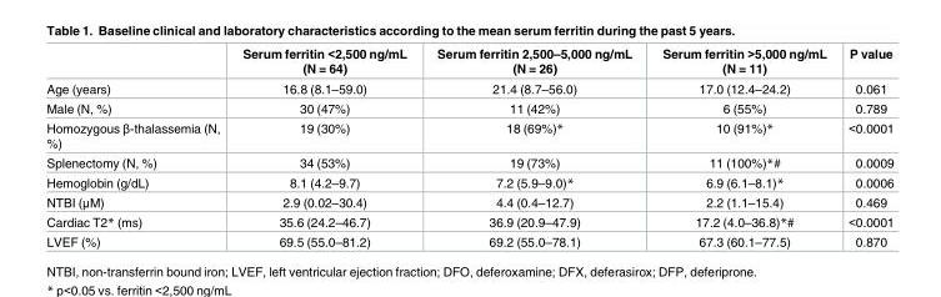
<table><thead><tr><td></td><td>Serum ferritin &lt;2,500 ng/mL (N = 64)</td><td>Serum ferritin 2,500–5,000 ng/mL (N = 26)</td><td>Serum ferritin &gt;5,000 ng/mL (N = 11)</td><td>P value</td></tr></thead><tbody><tr><td>Age (years)</td><td>16.8 (8.1–59.0)</td><td>21.4 (8.7–56.0)</td><td>17.0 (12.4–24.2)</td><td>0.061</td></tr><tr><td>Male (N, %)</td><td>30 (47%)</td><td>11 (42%)</td><td>6 (55%)</td><td>0.789</td></tr><tr><td>Homozygous β-thalassemia (N, %)</td><td>19 (30%)</td><td>18 (69%)*</td><td>10 (91%)*</td><td>&lt;0.0001</td></tr><tr><td>Splenectomy (N, %)</td><td>34 (53%)</td><td>19 (73%)</td><td>11 (100%)*#</td><td>0.0009</td></tr><tr><td>Hemoglobin (g/dL)</td><td>8.1 (4.2–9.7)</td><td>7.2 (5.9–9.0)*</td><td>6.9 (6.1–8.1)*</td><td>0.0006</td></tr><tr><td>NTBI (μM)</td><td>2.9 (0.02–30.4)</td><td>4.4 (0.4–12.7)</td><td>2.2 (1.1–15.4)</td><td>0.469</td></tr><tr><td>Cardiac T2* (ms)</td><td>35.6 (24.2–46.7)</td><td>36.9 (20.9–47.9)</td><td>17.2 (4.0–36.8)*#</td><td>&lt;0.0001</td></tr><tr><td>LVEF (%)</td><td>69.5 (55.0–81.2)</td><td>69.2 (55.0–78.1)</td><td>67.3 (60.1–77.5)</td><td>0.870</td></tr></tbody></table>